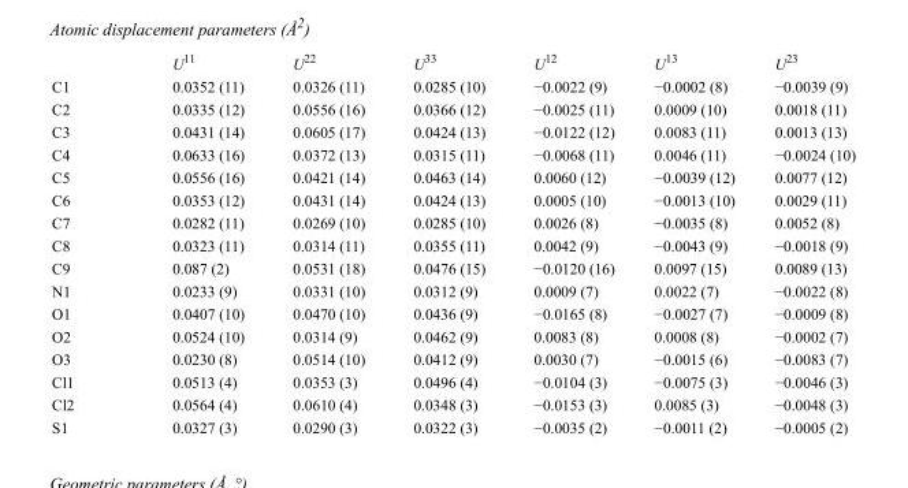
<table><thead><tr><td></td><td>U<sup>11</sup></td><td>U<sup>22</sup></td><td>U<sup>33</sup></td><td>U<sup>12</sup></td><td>U<sup>13</sup></td><td>U<sup>23</sup></td></tr></thead><tbody><tr><td>C1</td><td>0.0352 (11)</td><td>0.0326 (11)</td><td>0.0285 (10)</td><td>−0.0022 (9)</td><td>−0.0002 (8)</td><td>−0.0039 (9)</td></tr><tr><td>C2</td><td>0.0335 (12)</td><td>0.0556 (16)</td><td>0.0366 (12)</td><td>−0.0025 (11)</td><td>0.0009 (10)</td><td>0.0018 (11)</td></tr><tr><td>C3</td><td>0.0431 (14)</td><td>0.0605 (17)</td><td>0.0424 (13)</td><td>−0.0122 (12)</td><td>0.0083 (11)</td><td>0.0013 (13)</td></tr><tr><td>C4</td><td>0.0633 (16)</td><td>0.0372 (13)</td><td>0.0315 (11)</td><td>−0.0068 (11)</td><td>0.0046 (11)</td><td>−0.0024 (10)</td></tr><tr><td>C5</td><td>0.0556 (16)</td><td>0.0421 (14)</td><td>0.0463 (14)</td><td>0.0060 (12)</td><td>−0.0039 (12)</td><td>0.0077 (12)</td></tr><tr><td>C6</td><td>0.0353 (12)</td><td>0.0431 (14)</td><td>0.0424 (13)</td><td>0.0005 (10)</td><td>−0.0013 (10)</td><td>0.0029 (11)</td></tr><tr><td>C7</td><td>0.0282 (11)</td><td>0.0269 (10)</td><td>0.0285 (10)</td><td>0.0026 (8)</td><td>−0.0035 (8)</td><td>0.0052 (8)</td></tr><tr><td>C8</td><td>0.0323 (11)</td><td>0.0314 (11)</td><td>0.0355 (11)</td><td>0.0042 (9)</td><td>−0.0043 (9)</td><td>−0.0018 (9)</td></tr><tr><td>C9</td><td>0.087 (2)</td><td>0.0531 (18)</td><td>0.0476 (15)</td><td>−0.0120 (16)</td><td>0.0097 (15)</td><td>0.0089 (13)</td></tr><tr><td>N1</td><td>0.0233 (9)</td><td>0.0331 (10)</td><td>0.0312 (9)</td><td>0.0009 (7)</td><td>0.0022 (7)</td><td>−0.0022 (8)</td></tr><tr><td>O1</td><td>0.0407 (10)</td><td>0.0470 (10)</td><td>0.0436 (9)</td><td>−0.0165 (8)</td><td>−0.0027 (7)</td><td>−0.0009 (8)</td></tr><tr><td>O2</td><td>0.0524 (10)</td><td>0.0314 (9)</td><td>0.0462 (9)</td><td>0.0083 (8)</td><td>0.0008 (8)</td><td>−0.0002 (7)</td></tr><tr><td>O3</td><td>0.0230 (8)</td><td>0.0514 (10)</td><td>0.0412 (9)</td><td>0.0030 (7)</td><td>−0.0015 (6)</td><td>−0.0083 (7)</td></tr><tr><td>Cl1</td><td>0.0513 (4)</td><td>0.0353 (3)</td><td>0.0496 (4)</td><td>−0.0104 (3)</td><td>−0.0075 (3)</td><td>−0.0046 (3)</td></tr><tr><td>Cl2</td><td>0.0564 (4)</td><td>0.0610 (4)</td><td>0.0348 (3)</td><td>−0.0153 (3)</td><td>0.0085 (3)</td><td>−0.0048 (3)</td></tr><tr><td>S1</td><td>0.0327 (3)</td><td>0.0290 (3)</td><td>0.0322 (3)</td><td>−0.0035 (2)</td><td>−0.0011 (2)</td><td>−0.0005 (2)</td></tr></tbody></table>